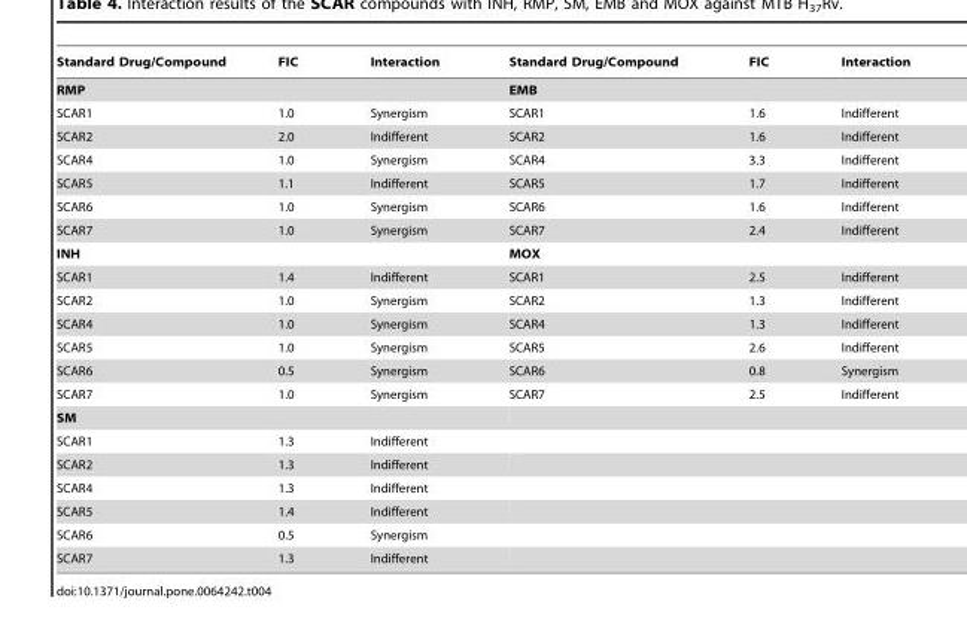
<table><thead><tr><td>Standard Drug/Compound</td><td>FIC</td><td>Interaction</td><td>Standard Drug/Compound</td><td>FIC</td><td>Interaction</td></tr></thead><tbody><tr><td colspan="3">RMP</td><td colspan="3">EMB</td></tr><tr><td>SCAR1</td><td>1.0</td><td>Synergism</td><td>SCAR1</td><td>1.6</td><td>Indifferent</td></tr><tr><td>SCAR2</td><td>2.0</td><td>Indifferent</td><td>SCAR2</td><td>1.6</td><td>Indifferent</td></tr><tr><td>SCAR4</td><td>1.0</td><td>Synergism</td><td>SCAR4</td><td>3.3</td><td>Indifferent</td></tr><tr><td>SCAR5</td><td>1.1</td><td>Indifferent</td><td>SCAR5</td><td>1.7</td><td>Indifferent</td></tr><tr><td>SCAR6</td><td>1.0</td><td>Synergism</td><td>SCAR6</td><td>1.6</td><td>Indifferent</td></tr><tr><td>SCAR7</td><td>1.0</td><td>Synergism</td><td>SCAR7</td><td>2.4</td><td>Indifferent</td></tr><tr><td colspan="3">INH</td><td colspan="3">MOX</td></tr><tr><td>SCAR1</td><td>1.4</td><td>Indifferent</td><td>SCAR1</td><td>2.5</td><td>Indifferent</td></tr><tr><td>SCAR2</td><td>1.0</td><td>Synergism</td><td>SCAR2</td><td>1.3</td><td>Indifferent</td></tr><tr><td>SCAR4</td><td>1.0</td><td>Synergism</td><td>SCAR4</td><td>1.3</td><td>Indifferent</td></tr><tr><td>SCAR5</td><td>1.0</td><td>Synergism</td><td>SCAR5</td><td>2.6</td><td>Indifferent</td></tr><tr><td>SCAR6</td><td>0.5</td><td>Synergism</td><td>SCAR6</td><td>0.8</td><td>Synergism</td></tr><tr><td>SCAR7</td><td>1.0</td><td>Synergism</td><td>SCAR7</td><td>2.5</td><td>Indifferent</td></tr><tr><td colspan="6">SM</td></tr><tr><td>SCAR1</td><td>1.3</td><td>Indifferent</td><td colspan="3"></td></tr><tr><td>SCAR2</td><td>1.3</td><td>Indifferent</td><td colspan="3"></td></tr><tr><td>SCAR4</td><td>1.3</td><td>Indifferent</td><td colspan="3"></td></tr><tr><td>SCAR5</td><td>1.4</td><td>Indifferent</td><td colspan="3"></td></tr><tr><td>SCAR6</td><td>0.5</td><td>Synergism</td><td colspan="3"></td></tr><tr><td>SCAR7</td><td>1.3</td><td>Indifferent</td><td colspan="3"></td></tr></tbody></table>